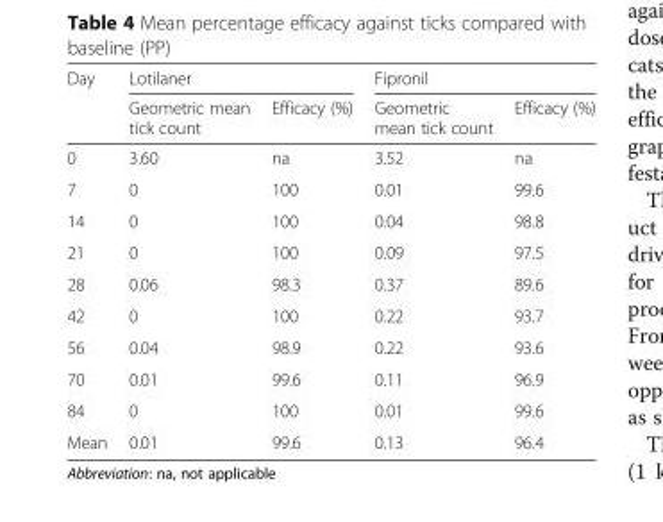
<table><thead><tr><td rowspan="2">Day</td><td colspan="2">Lotilaner</td><td colspan="2">Fipronil</td></tr><tr><td>Geometric mean tick count</td><td>Efficacy (%)</td><td>Geometric mean tick count</td><td>Efficacy (%)</td></tr></thead><tbody><tr><td>0</td><td>3.60</td><td>na</td><td>3.52</td><td>na</td></tr><tr><td>7</td><td>0</td><td>100</td><td>0.01</td><td>99.6</td></tr><tr><td>14</td><td>0</td><td>100</td><td>0.04</td><td>98.8</td></tr><tr><td>21</td><td>0</td><td>100</td><td>0.09</td><td>97.5</td></tr><tr><td>28</td><td>0.06</td><td>98.3</td><td>0.37</td><td>89.6</td></tr><tr><td>42</td><td>0</td><td>100</td><td>0.22</td><td>93.7</td></tr><tr><td>56</td><td>0.04</td><td>98.9</td><td>0.22</td><td>93.6</td></tr><tr><td>70</td><td>0.01</td><td>99.6</td><td>0.11</td><td>96.9</td></tr><tr><td>84</td><td>0</td><td>100</td><td>0.01</td><td>99.6</td></tr><tr><td>Mean</td><td>0.01</td><td>99.6</td><td>0.13</td><td>96.4</td></tr></tbody></table>